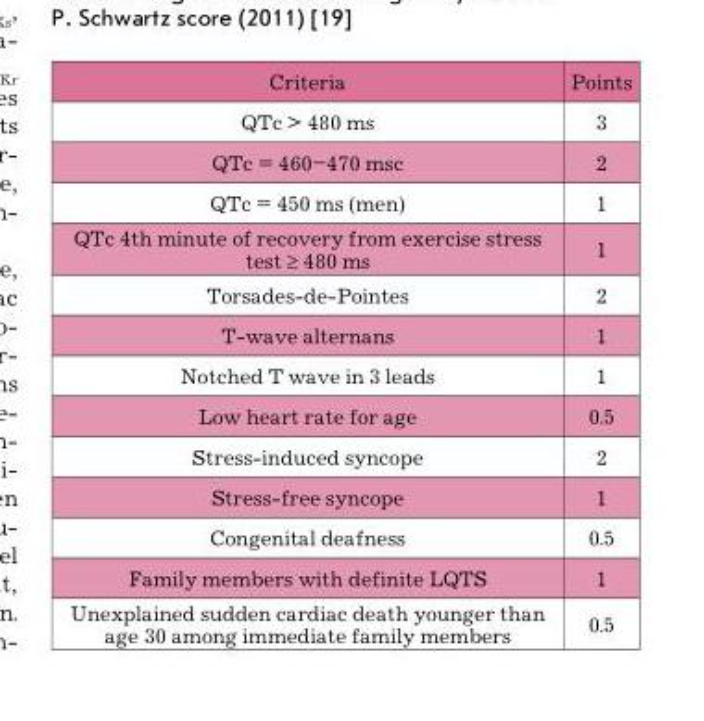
<table><thead><tr><td>Criteria</td><td>Points</td></tr></thead><tbody><tr><td>QTc &gt; 480 ms</td><td>3</td></tr><tr><td>QTc = 460–470 msc</td><td>2</td></tr><tr><td>QTc = 450 ms (men)</td><td>1</td></tr><tr><td>QTc 4th minute of recovery from exercise stress test ≥ 480 ms</td><td>1</td></tr><tr><td>Torsades-de-Pointes</td><td>2</td></tr><tr><td>T-wave alternans</td><td>1</td></tr><tr><td>Notched T wave in 3 leads</td><td>1</td></tr><tr><td>Low heart rate for age</td><td>0.5</td></tr><tr><td>Stress-induced syncope</td><td>2</td></tr><tr><td>Stress-free syncope</td><td>1</td></tr><tr><td>Congenital deafness</td><td>0.5</td></tr><tr><td>Family members with definite LQTS</td><td>1</td></tr><tr><td>Unexplained sudden cardiac death younger than age 30 among immediate family members</td><td>0.5</td></tr></tbody></table>